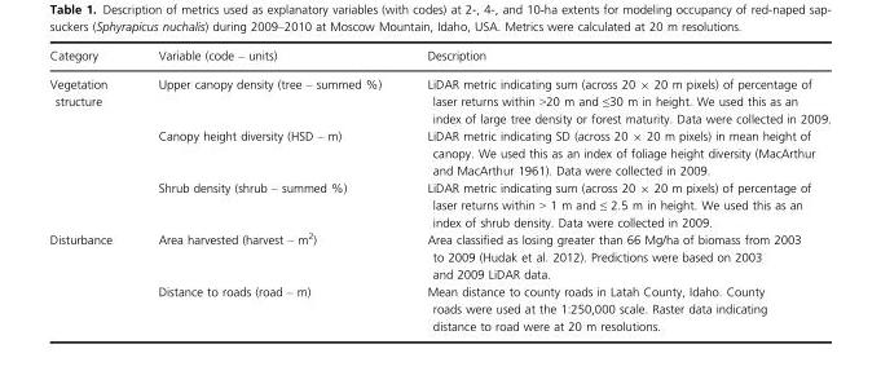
<table><thead><tr><td>Category</td><td>Variable (code – units)</td><td>Description</td></tr></thead><tbody><tr><td rowspan="3">Vegetation structure</td><td>Upper canopy density (tree – summed %)</td><td>LiDAR metric indicating sum (across 20 × 20 m pixels) of percentage of laser returns within &gt;20 m and ≤30 m in height. We used this as an index of large tree density or forest maturity. Data were collected in 2009.</td></tr><tr><td>Canopy height diversity (HSD – m)</td><td>LiDAR metric indicating SD (across 20 × 20 m pixels) in mean height of canopy. We used this as an index of foliage height diversity (MacArthur and MacArthur 1961). Data were collected in 2009.</td></tr><tr><td>Shrub density (shrub – summed %)</td><td>LiDAR metric indicating sum (across 20 × 20 m pixels) of percentage of laser returns within &gt; 1 m and ≤ 2.5 m in height. We used this as an index of shrub density. Data were collected in 2009.</td></tr><tr><td rowspan="2">Disturbance</td><td>Area harvested (harvest – m<sup>2</sup>)</td><td>Area classified as losing greater than 66 Mg/ha of biomass from 2003 to 2009 (Hudak et al. 2012). Predictions were based on 2003 and 2009 LiDAR data.</td></tr><tr><td>Distance to roads (road – m)</td><td>Mean distance to county roads in Latah County, Idaho. County roads were used at the 1:250,000 scale. Raster data indicating distance to road were at 20 m resolutions.</td></tr></tbody></table>